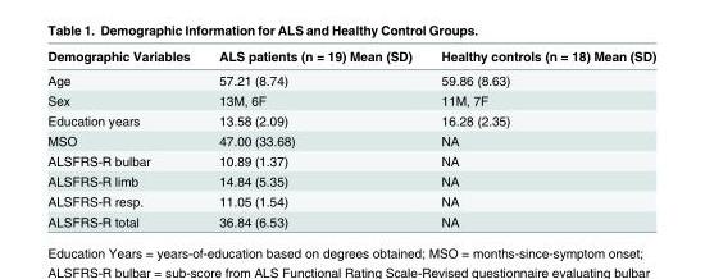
<table><thead><tr><td>Demographic Variables</td><td>ALS patients (n = 19) Mean (SD)</td><td>Healthy controls (n = 18) Mean (SD)</td></tr></thead><tbody><tr><td>Age</td><td>57.21 (8.74)</td><td>59.86 (8.63)</td></tr><tr><td>Sex</td><td>13M, 6F</td><td>11M, 7F</td></tr><tr><td>Education years</td><td>13.58 (2.09)</td><td>16.28 (2.35)</td></tr><tr><td>MSO</td><td>47.00 (33.68)</td><td>NA</td></tr><tr><td>ALSFRS-R bulbar</td><td>10.89 (1.37)</td><td>NA</td></tr><tr><td>ALSFRS-R limb</td><td>14.84 (5.35)</td><td>NA</td></tr><tr><td>ALSFRS-R resp.</td><td>11.05 (1.54)</td><td>NA</td></tr><tr><td>ALSFRS-R total</td><td>36.84 (6.53)</td><td>NA</td></tr></tbody></table>